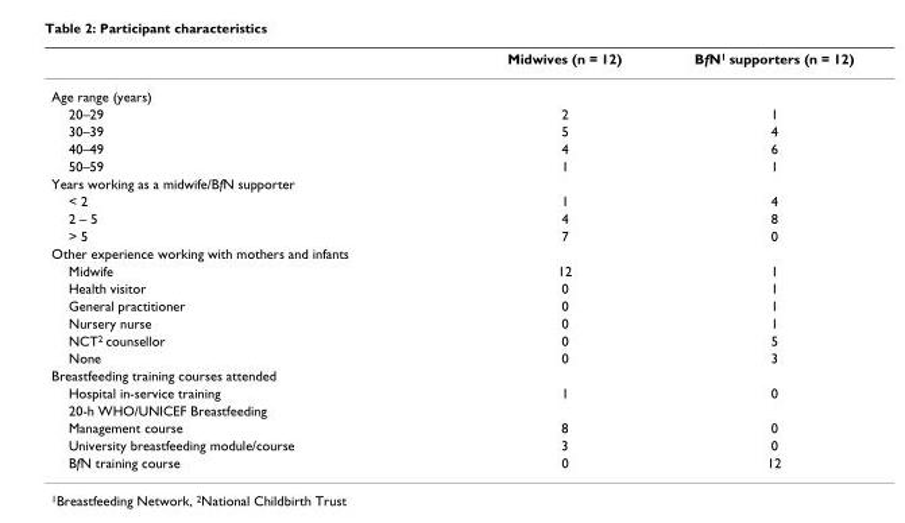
<table><thead><tr><td></td><td>Midwives (n = 12)</td><td>BfN<sup>1</sup> supporters (n = 12)</td></tr></thead><tbody><tr><td colspan="3">Age range (years)</td></tr><tr><td>20–29</td><td>2</td><td>1</td></tr><tr><td>30–39</td><td>5</td><td>4</td></tr><tr><td>40–49</td><td>4</td><td>6</td></tr><tr><td>50–59</td><td>1</td><td>1</td></tr><tr><td colspan="3">Years working as a midwife/BfN supporter</td></tr><tr><td>&lt; 2</td><td>1</td><td>4</td></tr><tr><td>2 – 5</td><td>4</td><td>8</td></tr><tr><td>&gt; 5</td><td>7</td><td>0</td></tr><tr><td colspan="3">Other experience working with mothers and infants</td></tr><tr><td>Midwife</td><td>12</td><td>1</td></tr><tr><td>Health visitor</td><td>0</td><td>1</td></tr><tr><td>General practitioner</td><td>0</td><td>1</td></tr><tr><td>Nursery nurse</td><td>0</td><td>1</td></tr><tr><td>NCT<sup>2</sup> counsellor</td><td>0</td><td>5</td></tr><tr><td>None</td><td>0</td><td>3</td></tr><tr><td colspan="3">Breastfeeding training courses attended</td></tr><tr><td>Hospital in-service training</td><td>1</td><td>0</td></tr><tr><td colspan="3">20-h WHO/UNICEF Breastfeeding</td></tr><tr><td>Management course</td><td>8</td><td>0</td></tr><tr><td>University breastfeeding module/course</td><td>3</td><td>0</td></tr><tr><td>BfN training course</td><td>0</td><td>12</td></tr></tbody></table>